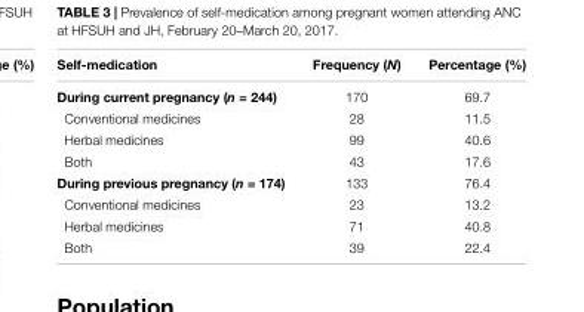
<table><thead><tr><td>Self-medication</td><td>Frequency (N)</td><td>Percentage (%)</td></tr></thead><tbody><tr><td>During current pregnancy (n = 244)</td><td>170</td><td>69.7</td></tr><tr><td>Conventional medicines</td><td>28</td><td>11.5</td></tr><tr><td>Herbal medicines</td><td>99</td><td>40.6</td></tr><tr><td>Both</td><td>43</td><td>17.6</td></tr><tr><td>During previous pregnancy (n = 174)</td><td>133</td><td>76.4</td></tr><tr><td>Conventional medicines</td><td>23</td><td>13.2</td></tr><tr><td>Herbal medicines</td><td>71</td><td>40.8</td></tr><tr><td>Both</td><td>39</td><td>22.4</td></tr></tbody></table>